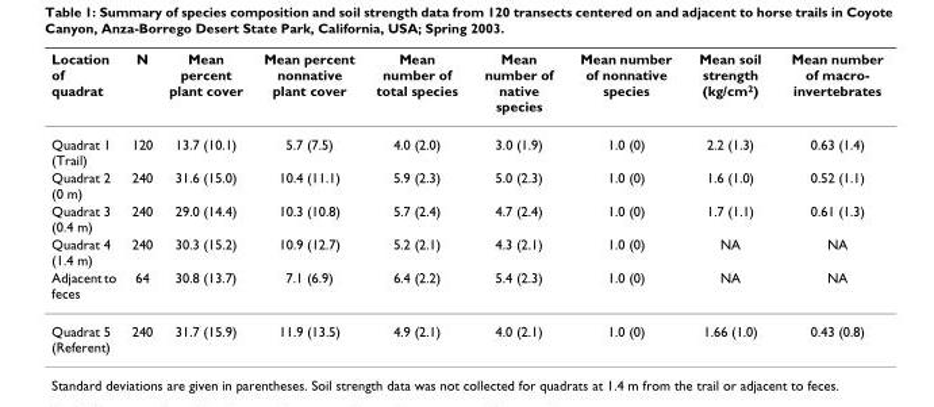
<table><thead><tr><td>Location of quadrat</td><td>N</td><td>Mean percent plant cover</td><td>Mean percent nonnative plant cover</td><td>Mean number of total species</td><td>Mean number of native species</td><td>Mean number of nonnative species</td><td>Mean soil strength (kg/cm<sup>2</sup>)</td><td>Mean number of macro- invertebrates</td></tr></thead><tbody><tr><td>Quadrat 1 (Trail)</td><td>120</td><td>13.7 (10.1)</td><td>5.7 (7.5)</td><td>4.0 (2.0)</td><td>3.0 (1.9)</td><td>1.0 (0)</td><td>2.2 (1.3)</td><td>0.63 (1.4)</td></tr><tr><td>Quadrat 2 (0 m)</td><td>240</td><td>31.6 (15.0)</td><td>10.4 (11.1)</td><td>5.9 (2.3)</td><td>5.0 (2.3)</td><td>1.0 (0)</td><td>1.6 (1.0)</td><td>0.52 (1.1)</td></tr><tr><td>Quadrat 3 (0.4 m)</td><td>240</td><td>29.0 (14.4)</td><td>10.3 (10.8)</td><td>5.7 (2.4)</td><td>4.7 (2.4)</td><td>1.0 (0)</td><td>1.7 (1.1)</td><td>0.61 (1.3)</td></tr><tr><td>Quadrat 4 (1.4 m)</td><td>240</td><td>30.3 (15.2)</td><td>10.9 (12.7)</td><td>5.2 (2.1)</td><td>4.3 (2.1)</td><td>1.0 (0)</td><td>NA</td><td>NA</td></tr><tr><td>Adjacent to feces</td><td>64</td><td>30.8 (13.7)</td><td>7.1 (6.9)</td><td>6.4 (2.2)</td><td>5.4 (2.3)</td><td>1.0 (0)</td><td>NA</td><td>NA</td></tr><tr><td>Quadrat 5 (Referent)</td><td>240</td><td>31.7 (15.9)</td><td>11.9 (13.5)</td><td>4.9 (2.1)</td><td>4.0 (2.1)</td><td>1.0 (0)</td><td>1.66 (1.0)</td><td>0.43 (0.8)</td></tr></tbody></table>